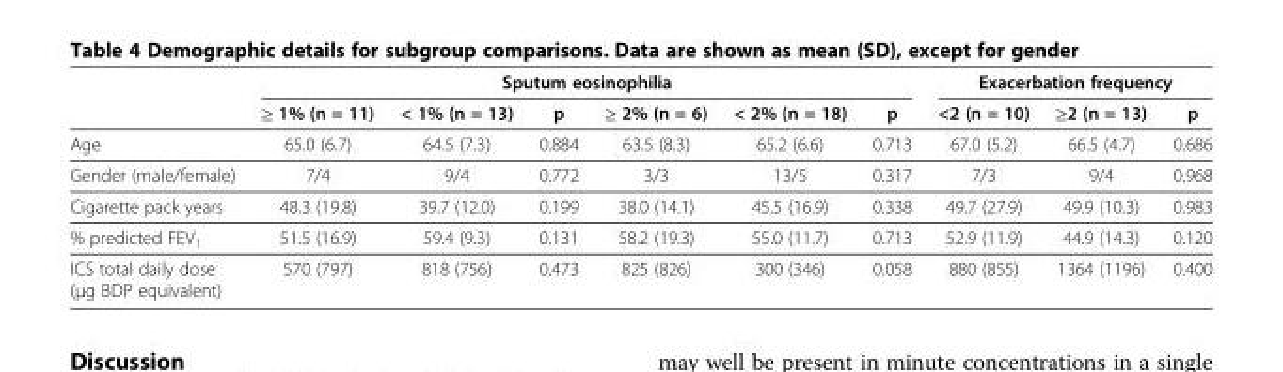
<table><thead><tr><td rowspan="2"></td><td colspan="6">Sputum eosinophilia</td><td colspan="3">Exacerbation frequency</td></tr><tr><td>≥ 1% (n = 11)</td><td>&lt; 1% (n = 13)</td><td>p</td><td>≥ 2% (n = 6)</td><td>&lt; 2% (n = 18)</td><td>p</td><td>&lt;2 (n = 10)</td><td>≥2 (n = 13)</td><td>p</td></tr></thead><tbody><tr><td>Age</td><td>65.0 (6.7)</td><td>64.5 (7.3)</td><td>0.884</td><td>63.5 (8.3)</td><td>65.2 (6.6)</td><td>0.713</td><td>67.0 (5.2)</td><td>66.5 (4.7)</td><td>0.686</td></tr><tr><td>Gender (male/female)</td><td>7/4</td><td>9/4</td><td>0.772</td><td>3/3</td><td>13/5</td><td>0.317</td><td>7/3</td><td>9/4</td><td>0.968</td></tr><tr><td>Cigarette pack years</td><td>48.3 (19.8)</td><td>39.7 (12.0)</td><td>0.199</td><td>38.0 (14.1)</td><td>45.5 (16.9)</td><td>0.338</td><td>49.7 (27.9)</td><td>49.9 (10.3)</td><td>0.983</td></tr><tr><td>% predicted FEV<sub>1</sub></td><td>51.5 (16.9)</td><td>59.4 (9.3)</td><td>0.131</td><td>58.2 (19.3)</td><td>55.0 (11.7)</td><td>0.713</td><td>52.9 (11.9)</td><td>44.9 (14.3)</td><td>0.120</td></tr><tr><td>ICS total daily dose (μg BDP equivalent)</td><td>570 (797)</td><td>818 (756)</td><td>0.473</td><td>825 (826)</td><td>300 (346)</td><td>0.058</td><td>880 (855)</td><td>1364 (1196)</td><td>0.400</td></tr></tbody></table>